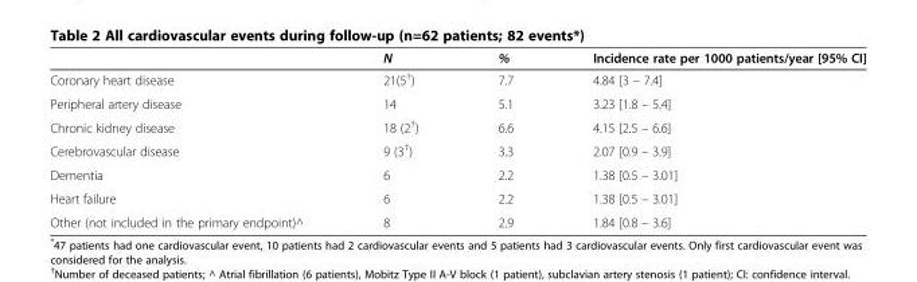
<table><thead><tr><td></td><td>N</td><td>%</td><td>Incidence rate per 1000 patients/year [95% CI]</td></tr></thead><tbody><tr><td>Coronary heart disease</td><td>21(5<sup>†</sup>)</td><td>7.7</td><td>4.84 [3 – 7.4]</td></tr><tr><td>Peripheral artery disease</td><td>14</td><td>5.1</td><td>3.23 [1.8 – 5.4]</td></tr><tr><td>Chronic kidney disease</td><td>18 (2<sup>†</sup>)</td><td>6.6</td><td>4.15 [2.5 – 6.6]</td></tr><tr><td>Cerebrovascular disease</td><td>9 (3<sup>†</sup>)</td><td>3.3</td><td>2.07 [0.9 – 3.9]</td></tr><tr><td>Dementia</td><td>6</td><td>2.2</td><td>1.38 [0.5 – 3.01]</td></tr><tr><td>Heart failure</td><td>6</td><td>2.2</td><td>1.38 [0.5 – 3.01]</td></tr><tr><td>Other (not included in the primary endpoint)^</td><td>8</td><td>2.9</td><td>1.84 [0.8 – 3.6]</td></tr></tbody></table>